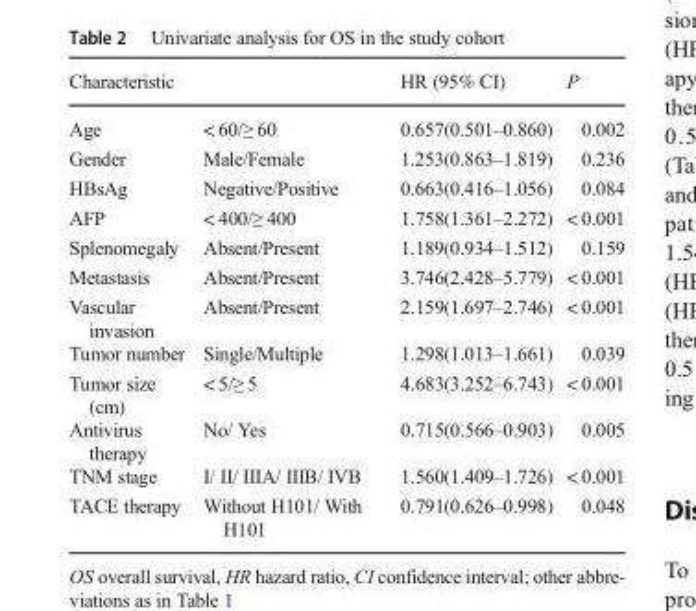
<table><thead><tr><td>Characteristic</td><td></td><td>HR (95% CI)</td><td>P</td></tr></thead><tbody><tr><td>Age</td><td>&lt; 60/≥ 60</td><td>0.657(0.501–0.860)</td><td>0.002</td></tr><tr><td>Gender</td><td>Male/Female</td><td>1.253(0.863–1.819)</td><td>0.236</td></tr><tr><td>HBsAg</td><td>Negative/Positive</td><td>0.663(0.416–1.056)</td><td>0.084</td></tr><tr><td>AFP</td><td>&lt; 400/≥ 400</td><td>1.758(1.361–2.272)</td><td>&lt; 0.001</td></tr><tr><td>Splenomegaly</td><td>Absent/Present</td><td>1.189(0.934–1.512)</td><td>0.159</td></tr><tr><td>Metastasis</td><td>Absent/Present</td><td>3.746(2.428–5.779)</td><td>&lt; 0.001</td></tr><tr><td>Vascular invasion</td><td>Absent/Present</td><td>2.159(1.697–2.746)</td><td>&lt; 0.001</td></tr><tr><td>Tumor number</td><td>Single/Multiple</td><td>1.298(1.013–1.661)</td><td>0.039</td></tr><tr><td>Tumor size (cm)</td><td>&lt; 5/≥ 5</td><td>4.683(3.252–6.743)</td><td>&lt; 0.001</td></tr><tr><td>Antivirus therapy</td><td>No/ Yes</td><td>0.715(0.566–0.903)</td><td>0.005</td></tr><tr><td>TNM stage</td><td>I/ II/ IIIA/ IIIB/ IVB</td><td>1.560(1.409–1.726)</td><td>&lt; 0.001</td></tr><tr><td>TACE therapy</td><td>Without H101/ With H101</td><td>0.791(0.626–0.998)</td><td>0.048</td></tr></tbody></table>